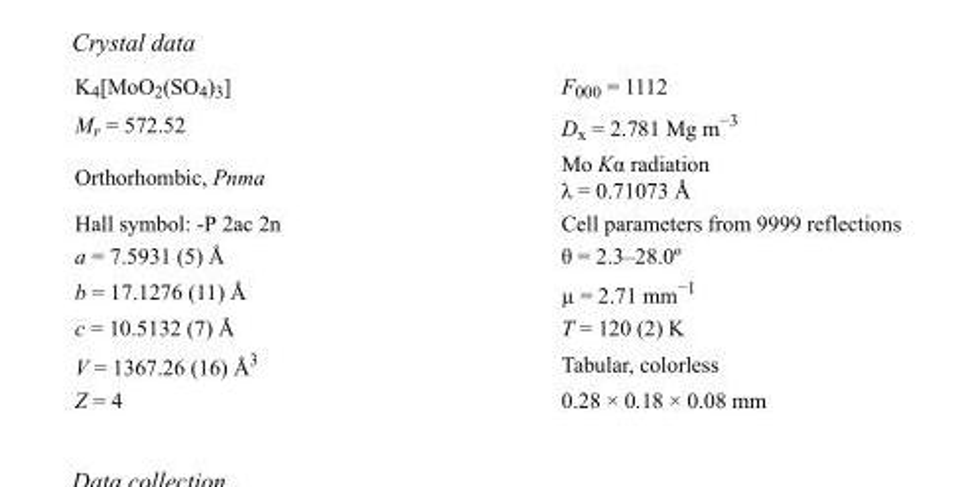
<table><tbody><tr><td>K<sub>4</sub>[MoO<sub>2</sub>(SO<sub>4</sub>)<sub>3</sub>]</td><td>F<sub>000</sub> = 1112</td></tr><tr><td>M<sub>r</sub> = 572.52</td><td>D<sub>x</sub> = 2.781 Mg m<sup>−3</sup></td></tr><tr><td>Orthorhombic, Pnma</td><td>Mo Kα radiation λ = 0.71073 Å</td></tr><tr><td>Hall symbol: -P 2ac 2n</td><td>Cell parameters from 9999 reflections</td></tr><tr><td>a = 7.5931 (5) Å</td><td>θ = 2.3–28.0º</td></tr><tr><td>b = 17.1276 (11) Å</td><td>µ = 2.71 mm<sup>−1</sup></td></tr><tr><td>c = 10.5132 (7) Å</td><td>T = 120 (2) K</td></tr><tr><td>V = 1367.26 (16) Å<sup>3</sup></td><td>Tabular, colorless</td></tr><tr><td>Z = 4</td><td>0.28 × 0.18 × 0.08 mm</td></tr></tbody></table>